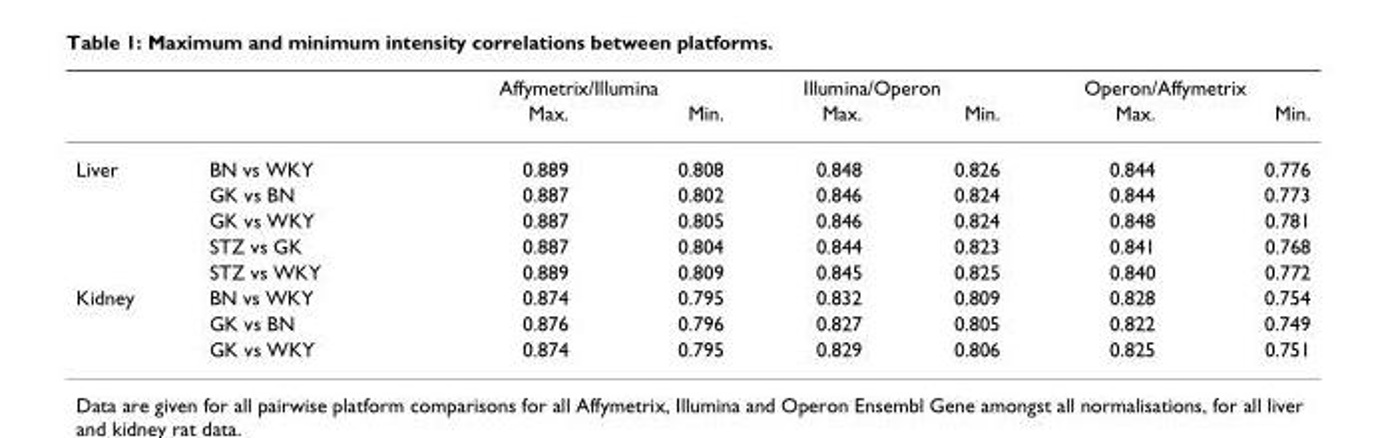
<table><thead><tr><td rowspan="2"></td><td rowspan="2"></td><td colspan="2">Affymetrix/Illumina</td><td colspan="2">Illumina/Operon</td><td colspan="2">Operon/Affymetrix</td></tr><tr><td>Max.</td><td>Min.</td><td>Max.</td><td>Min.</td><td>Max.</td><td>Min.</td></tr></thead><tbody><tr><td rowspan="5">Liver</td><td>BN vs WKY</td><td>0.889</td><td>0.808</td><td>0.848</td><td>0.826</td><td>0.844</td><td>0.776</td></tr><tr><td>GK vs BN</td><td>0.887</td><td>0.802</td><td>0.846</td><td>0.824</td><td>0.844</td><td>0.773</td></tr><tr><td>GK vs WKY</td><td>0.887</td><td>0.805</td><td>0.846</td><td>0.824</td><td>0.848</td><td>0.781</td></tr><tr><td>STZ vs GK</td><td>0.887</td><td>0.804</td><td>0.844</td><td>0.823</td><td>0.841</td><td>0.768</td></tr><tr><td>STZ vs WKY</td><td>0.889</td><td>0.809</td><td>0.845</td><td>0.825</td><td>0.840</td><td>0.772</td></tr><tr><td rowspan="3">Kidney</td><td>BN vs WKY</td><td>0.874</td><td>0.795</td><td>0.832</td><td>0.809</td><td>0.828</td><td>0.754</td></tr><tr><td>GK vs BN</td><td>0.876</td><td>0.796</td><td>0.827</td><td>0.805</td><td>0.822</td><td>0.749</td></tr><tr><td>GK vs WKY</td><td>0.874</td><td>0.795</td><td>0.829</td><td>0.806</td><td>0.825</td><td>0.751</td></tr></tbody></table>